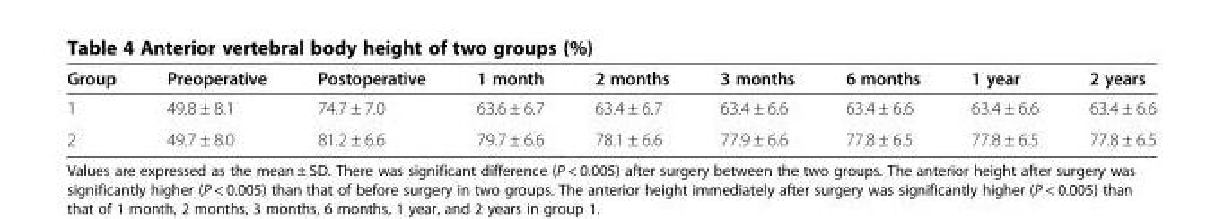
<table><thead><tr><td>Group</td><td>Preoperative</td><td>Postoperative</td><td>1 month</td><td>2 months</td><td>3 months</td><td>6 months</td><td>1 year</td><td>2 years</td></tr></thead><tbody><tr><td>1</td><td>49.8 ± 8.1</td><td>74.7 ± 7.0</td><td>63.6 ± 6.7</td><td>63.4 ± 6.7</td><td>63.4 ± 6.6</td><td>63.4 ± 6.6</td><td>63.4 ± 6.6</td><td>63.4 ± 6.6</td></tr><tr><td>2</td><td>49.7 ± 8.0</td><td>81.2 ± 6.6</td><td>79.7 ± 6.6</td><td>78.1 ± 6.6</td><td>77.9 ± 6.6</td><td>77.8 ± 6.5</td><td>77.8 ± 6.5</td><td>77.8 ± 6.5</td></tr></tbody></table>